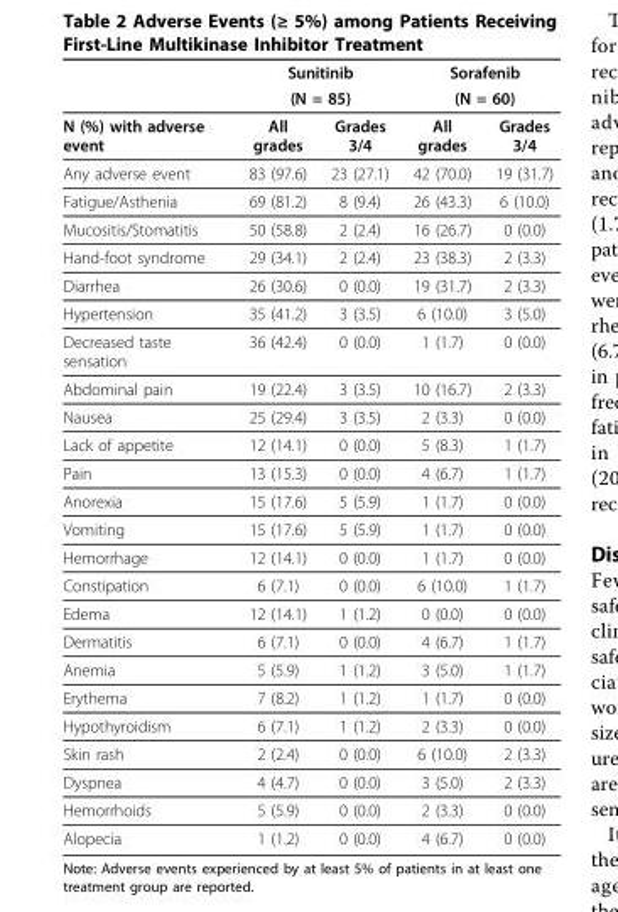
<table><thead><tr><td rowspan="3">N (%) with adverse event</td><td rowspan="2" colspan="2">Sunitinib (N = 85)</td><td rowspan="2" colspan="2">Sorafenib (N = 60)</td></tr><tr></tr><tr><td>All grades</td><td>Grades 3/4</td><td>All grades</td><td>Grades 3/4</td></tr></thead><tbody><tr><td>Any adverse event</td><td>83 (97.6)</td><td>23 (27.1)</td><td>42 (70.0)</td><td>19 (31.7)</td></tr><tr><td>Fatigue/Asthenia</td><td>69 (81.2)</td><td>8 (9.4)</td><td>26 (43.3)</td><td>6 (10.0)</td></tr><tr><td>Mucositis/Stomatitis</td><td>50 (58.8)</td><td>2 (2.4)</td><td>16 (26.7)</td><td>0 (0.0)</td></tr><tr><td>Hand-foot syndrome</td><td>29 (34.1)</td><td>2 (2.4)</td><td>23 (38.3)</td><td>2 (3.3)</td></tr><tr><td>Diarrhea</td><td>26 (30.6)</td><td>0 (0.0)</td><td>19 (31.7)</td><td>2 (3.3)</td></tr><tr><td>Hypertension</td><td>35 (41.2)</td><td>3 (3.5)</td><td>6 (10.0)</td><td>3 (5.0)</td></tr><tr><td>Decreased taste sensation</td><td>36 (42.4)</td><td>0 (0.0)</td><td>1 (1.7)</td><td>0 (0.0)</td></tr><tr><td>Abdominal pain</td><td>19 (22.4)</td><td>3 (3.5)</td><td>10 (16.7)</td><td>2 (3.3)</td></tr><tr><td>Nausea</td><td>25 (29.4)</td><td>3 (3.5)</td><td>2 (3.3)</td><td>0 (0.0)</td></tr><tr><td>Lack of appetite</td><td>12 (14.1)</td><td>0 (0.0)</td><td>5 (8.3)</td><td>1 (1.7)</td></tr><tr><td>Pain</td><td>13 (15.3)</td><td>0 (0.0)</td><td>4 (6.7)</td><td>1 (1.7)</td></tr><tr><td>Anorexia</td><td>15 (17.6)</td><td>5 (5.9)</td><td>1 (1.7)</td><td>0 (0.0)</td></tr><tr><td>Vomiting</td><td>15 (17.6)</td><td>5 (5.9)</td><td>1 (1.7)</td><td>0 (0.0)</td></tr><tr><td>Hemorrhage</td><td>12 (14.1)</td><td>0 (0.0)</td><td>1 (1.7)</td><td>0 (0.0)</td></tr><tr><td>Constipation</td><td>6 (7.1)</td><td>0 (0.0)</td><td>6 (10.0)</td><td>1 (1.7)</td></tr><tr><td>Edema</td><td>12 (14.1)</td><td>1 (1.2)</td><td>0 (0.0)</td><td>0 (0.0)</td></tr><tr><td>Dermatitis</td><td>6 (7.1)</td><td>0 (0.0)</td><td>4 (6.7)</td><td>1 (1.7)</td></tr><tr><td>Anemia</td><td>5 (5.9)</td><td>1 (1.2)</td><td>3 (5.0)</td><td>1 (1.7)</td></tr><tr><td>Erythema</td><td>7 (8.2)</td><td>1 (1.2)</td><td>1 (1.7)</td><td>0 (0.0)</td></tr><tr><td>Hypothyroidism</td><td>6 (7.1)</td><td>1 (1.2)</td><td>2 (3.3)</td><td>0 (0.0)</td></tr><tr><td>Skin rash</td><td>2 (2.4)</td><td>0 (0.0)</td><td>6 (10.0)</td><td>2 (3.3)</td></tr><tr><td>Dyspnea</td><td>4 (4.7)</td><td>0 (0.0)</td><td>3 (5.0)</td><td>2 (3.3)</td></tr><tr><td>Hemorrhoids</td><td>5 (5.9)</td><td>0 (0.0)</td><td>2 (3.3)</td><td>0 (0.0)</td></tr><tr><td>Alopecia</td><td>1 (1.2)</td><td>0 (0.0)</td><td>4 (6.7)</td><td>0 (0.0)</td></tr></tbody></table>